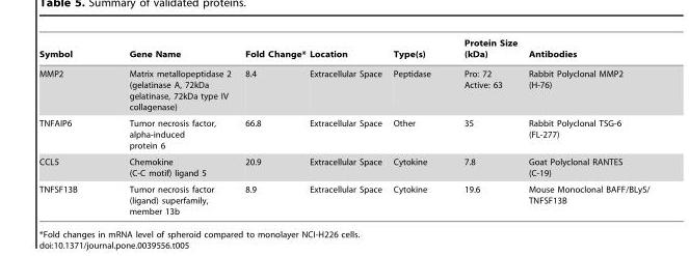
<table><thead><tr><td>Symbol</td><td>Gene Name</td><td>Fold Change*</td><td>Location</td><td>Type(s)</td><td>Protein Size (kDa)</td><td>Antibodies</td></tr></thead><tbody><tr><td>MMP2</td><td>Matrix metallopeptidase 2 (gelatinase A, 72kDa gelatinase, 72kDa type IV collagenase)</td><td>8.4</td><td>Extracellular Space</td><td>Peptidase</td><td>Pro: 72 Active: 63</td><td>Rabbit Polyclonal MMP2 (H-76)</td></tr><tr><td>TNFAIP6</td><td>Tumor necrosis factor, alpha-induced protein 6</td><td>66.8</td><td>Extracellular Space</td><td>Other</td><td>35</td><td>Rabbit Polyclonal TSG-6 (FL-277)</td></tr><tr><td>CCL5</td><td>Chemokine (C-C motif) ligand 5</td><td>20.9</td><td>Extracellular Space</td><td>Cytokine</td><td>7.8</td><td>Goat Polyclonal RANTES (C-19)</td></tr><tr><td>TNFSF13B</td><td>Tumor necrosis factor (ligand) superfamily, member 13b</td><td>8.9</td><td>Extracellular Space</td><td>Cytokine</td><td>19.6</td><td>Mouse Monoclonal BAFF/BLyS/ TNFSF13B</td></tr></tbody></table>